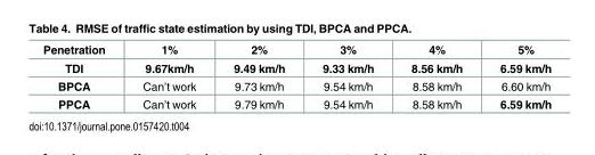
<table><thead><tr><td>Penetration</td><td>1%</td><td>2%</td><td>3%</td><td>4%</td><td>5%</td></tr></thead><tbody><tr><td>TDI</td><td>9.67km/h</td><td>9.49 km/h</td><td>9.33 km/h</td><td>8.56 km/h</td><td>6.59 km/h</td></tr><tr><td>BPCA</td><td>Can’t work</td><td>9.73 km/h</td><td>9.54 km/h</td><td>8.58 km/h</td><td>6.60 km/h</td></tr><tr><td>PPCA</td><td>Can’t work</td><td>9.79 km/h</td><td>9.54 km/h</td><td>8.58 km/h</td><td>6.59 km/h</td></tr></tbody></table>